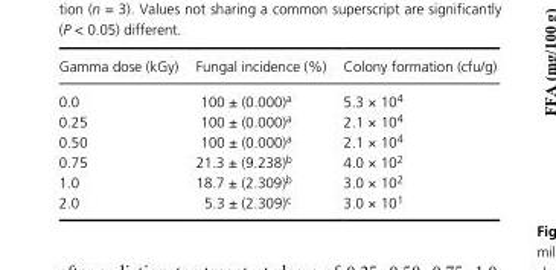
<table><thead><tr><td>Gamma dose (kGy)</td><td>Fungal incidence (%)</td><td>Colony formation (cfu/g)</td></tr></thead><tbody><tr><td>0.0</td><td>100 ± (0.000)<sup>a</sup></td><td>5.3 × 10<sup>4</sup></td></tr><tr><td>0.25</td><td>100 ± (0.000)<sup>a</sup></td><td>2.1 × 10<sup>4</sup></td></tr><tr><td>0.50</td><td>100 ± (0.000)<sup>a</sup></td><td>2.1 × 10<sup>4</sup></td></tr><tr><td>0.75</td><td>21.3 ± (9.238)<sup>b</sup></td><td>4.0 × 10<sup>2</sup></td></tr><tr><td>1.0</td><td>18.7 ± (2.309)<sup>b</sup></td><td>3.0 × 10<sup>2</sup></td></tr><tr><td>2.0</td><td>5.3 ± (2.309)<sup>c</sup></td><td>3.0 × 10<sup>1</sup></td></tr></tbody></table>